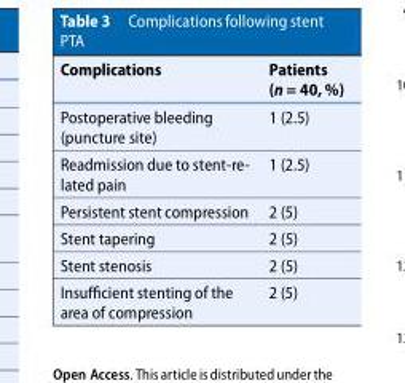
<table><thead><tr><td>Complications</td><td>Patients (n = 40, %)</td></tr></thead><tbody><tr><td>Postoperative bleeding (puncture site)</td><td>1 (2.5)</td></tr><tr><td>Readmission due to stent-re- lated pain</td><td>1 (2.5)</td></tr><tr><td>Persistent stent compression</td><td>2 (5)</td></tr><tr><td>Stent tapering</td><td>2 (5)</td></tr><tr><td>Stent stenosis</td><td>2 (5)</td></tr><tr><td>Insufficient stenting of the area of compression</td><td>2 (5)</td></tr></tbody></table>